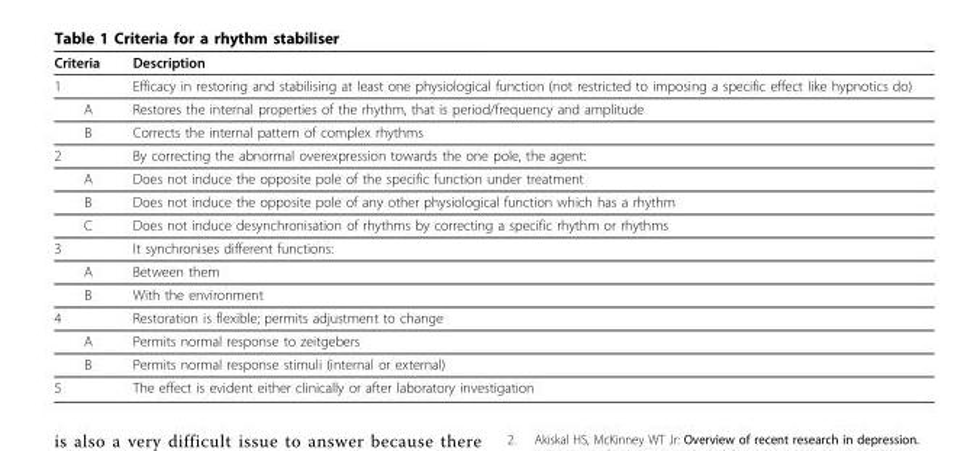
<table><thead><tr><td>Criteria</td><td>Description</td></tr></thead><tbody><tr><td>1</td><td>Efficacy in restoring and stabilising at least one physiological function (not restricted to imposing a specific effect like hypnotics do)</td></tr><tr><td>A</td><td>Restores the internal properties of the rhythm, that is period/frequency and amplitude</td></tr><tr><td>B</td><td>Corrects the internal pattern of complex rhythms</td></tr><tr><td>2</td><td>By correcting the abnormal overexpression towards the one pole, the agent:</td></tr><tr><td>A</td><td>Does not induce the opposite pole of the specific function under treatment</td></tr><tr><td>B</td><td>Does not induce the opposite pole of any other physiological function which has a rhythm</td></tr><tr><td>C</td><td>Does not induce desynchronisation of rhythms by correcting a specific rhythm or rhythms</td></tr><tr><td>3</td><td>It synchronises different functions:</td></tr><tr><td>A</td><td>Between them</td></tr><tr><td>B</td><td>With the environment</td></tr><tr><td>4</td><td>Restoration is flexible; permits adjustment to change</td></tr><tr><td>A</td><td>Permits normal response to zeitgebers</td></tr><tr><td>B</td><td>Permits normal response stimuli (internal or external)</td></tr><tr><td>5</td><td>The effect is evident either clinically or after laboratory investigation</td></tr></tbody></table>